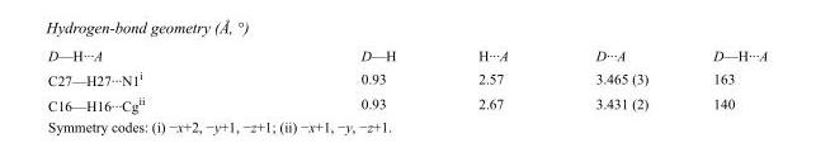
<table><tbody><tr><td>D—H···A</td><td>D—H</td><td>H···A</td><td>D···A</td><td>D—H···A</td></tr><tr><td>C27—H27···N1<sup>i</sup></td><td>0.93</td><td>2.57</td><td>3.465 (3)</td><td>163</td></tr><tr><td>C16—H16···Cg<sup>ii</sup></td><td>0.93</td><td>2.67</td><td>3.431 (2)</td><td>140</td></tr></tbody></table>